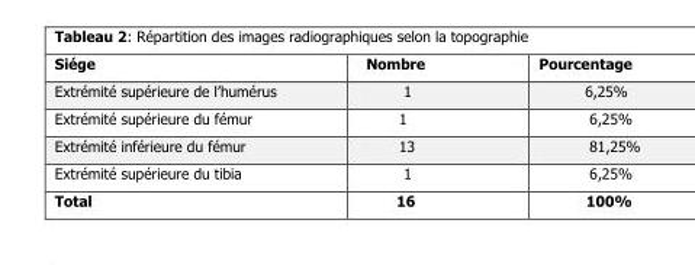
<table><thead><tr><td>Siége</td><td>Nombre</td><td>Pourcentage</td></tr></thead><tbody><tr><td>Extrémité supérieure de l’humérus</td><td>1</td><td>6,25%</td></tr><tr><td>Extrémité supérieure du fémur</td><td>1</td><td>6,25%</td></tr><tr><td>Extrémité inférieure du fémur</td><td>13</td><td>81,25%</td></tr><tr><td>Extrémité supérieure du tibia</td><td>1</td><td>6,25%</td></tr><tr><td>Total</td><td>16</td><td>100%</td></tr></tbody></table>